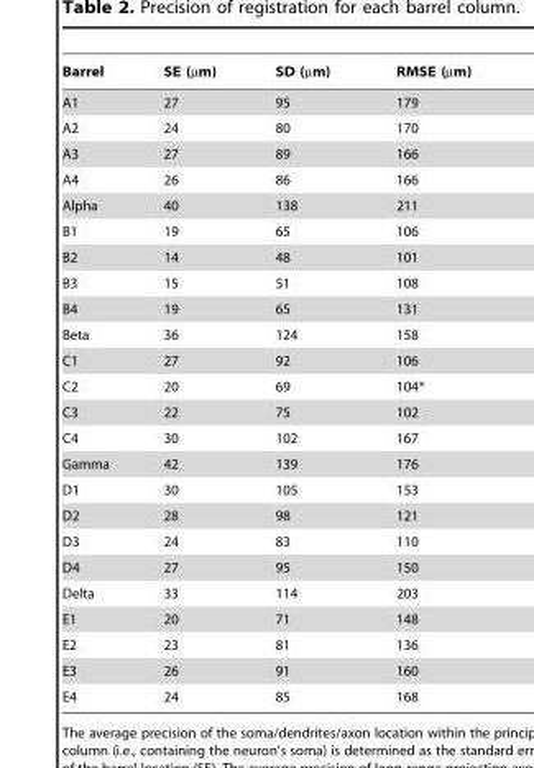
<table><thead><tr><td>Barrel</td><td>SE (µm)</td><td>SD (µm)</td><td>RMSE (µm)</td></tr></thead><tbody><tr><td>A1</td><td>27</td><td>95</td><td>179</td></tr><tr><td>A2</td><td>24</td><td>80</td><td>170</td></tr><tr><td>A3</td><td>27</td><td>89</td><td>166</td></tr><tr><td>A4</td><td>26</td><td>86</td><td>166</td></tr><tr><td>Alpha</td><td>40</td><td>138</td><td>211</td></tr><tr><td>B1</td><td>19</td><td>65</td><td>106</td></tr><tr><td>B2</td><td>14</td><td>48</td><td>101</td></tr><tr><td>B3</td><td>15</td><td>51</td><td>108</td></tr><tr><td>B4</td><td>19</td><td>65</td><td>131</td></tr><tr><td>Beta</td><td>36</td><td>124</td><td>158</td></tr><tr><td>C1</td><td>27</td><td>92</td><td>106</td></tr><tr><td>C2</td><td>20</td><td>69</td><td>104*</td></tr><tr><td>C3</td><td>22</td><td>75</td><td>102</td></tr><tr><td>C4</td><td>30</td><td>102</td><td>167</td></tr><tr><td>Gamma</td><td>42</td><td>139</td><td>176</td></tr><tr><td>D1</td><td>30</td><td>105</td><td>153</td></tr><tr><td>D2</td><td>28</td><td>98</td><td>121</td></tr><tr><td>D3</td><td>24</td><td>83</td><td>110</td></tr><tr><td>D4</td><td>27</td><td>95</td><td>150</td></tr><tr><td>Delta</td><td>33</td><td>114</td><td>203</td></tr><tr><td>E1</td><td>20</td><td>71</td><td>148</td></tr><tr><td>E2</td><td>23</td><td>81</td><td>136</td></tr><tr><td>E3</td><td>26</td><td>91</td><td>160</td></tr><tr><td>E4</td><td>24</td><td>85</td><td>168</td></tr></tbody></table>